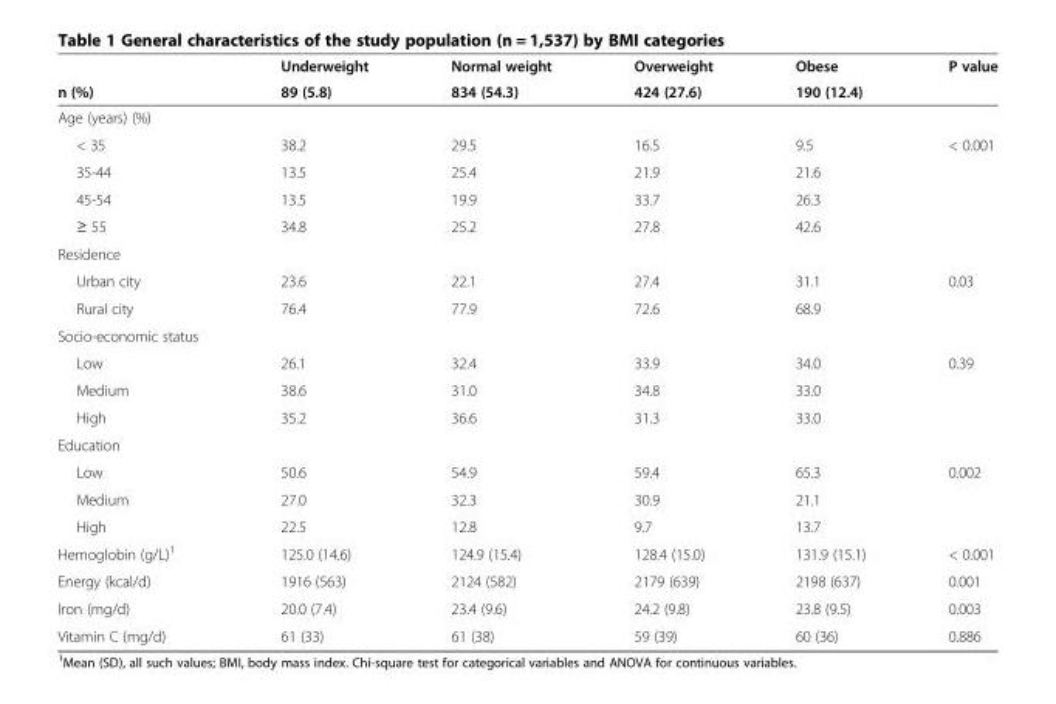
<table><thead><tr><td rowspan="2">n (%)</td><td rowspan="2">Underweight 89 (5.8)</td><td rowspan="2">Normal weight 834 (54.3)</td><td rowspan="2">Overweight 424 (27.6)</td><td rowspan="2">Obese 190 (12.4)</td><td rowspan="2">P value</td></tr><tr></tr></thead><tbody><tr><td colspan="6">Age (years) (%)</td></tr><tr><td>&lt; 35</td><td>38.2</td><td>29.5</td><td>16.5</td><td>9.5</td><td>&lt; 0.001</td></tr><tr><td>35-44</td><td>13.5</td><td>25.4</td><td>21.9</td><td>21.6</td><td></td></tr><tr><td>45-54</td><td>13.5</td><td>19.9</td><td>33.7</td><td>26.3</td><td></td></tr><tr><td>≥ 55</td><td>34.8</td><td>25.2</td><td>27.8</td><td>42.6</td><td></td></tr><tr><td colspan="6">Residence</td></tr><tr><td>Urban city</td><td>23.6</td><td>22.1</td><td>27.4</td><td>31.1</td><td>0.03</td></tr><tr><td>Rural city</td><td>76.4</td><td>77.9</td><td>72.6</td><td>68.9</td><td></td></tr><tr><td colspan="6">Socio-economic status</td></tr><tr><td>Low</td><td>26.1</td><td>32.4</td><td>33.9</td><td>34.0</td><td>0.39</td></tr><tr><td>Medium</td><td>38.6</td><td>31.0</td><td>34.8</td><td>33.0</td><td></td></tr><tr><td>High</td><td>35.2</td><td>36.6</td><td>31.3</td><td>33.0</td><td></td></tr><tr><td colspan="6">Education</td></tr><tr><td>Low</td><td>50.6</td><td>54.9</td><td>59.4</td><td>65.3</td><td>0.002</td></tr><tr><td>Medium</td><td>27.0</td><td>32.3</td><td>30.9</td><td>21.1</td><td></td></tr><tr><td>High</td><td>22.5</td><td>12.8</td><td>9.7</td><td>13.7</td><td></td></tr><tr><td>Hemoglobin (g/L)<sup>1</sup></td><td>125.0 (14.6)</td><td>124.9 (15.4)</td><td>128.4 (15.0)</td><td>131.9 (15.1)</td><td>&lt; 0.001</td></tr><tr><td>Energy (kcal/d)</td><td>1916 (563)</td><td>2124 (582)</td><td>2179 (639)</td><td>2198 (637)</td><td>0.001</td></tr><tr><td>Iron (mg/d)</td><td>20.0 (7.4)</td><td>23.4 (9.6)</td><td>24.2 (9.8)</td><td>23.8 (9.5)</td><td>0.003</td></tr><tr><td>Vitamin C (mg/d)</td><td>61 (33)</td><td>61 (38)</td><td>59 (39)</td><td>60 (36)</td><td>0.886</td></tr></tbody></table>